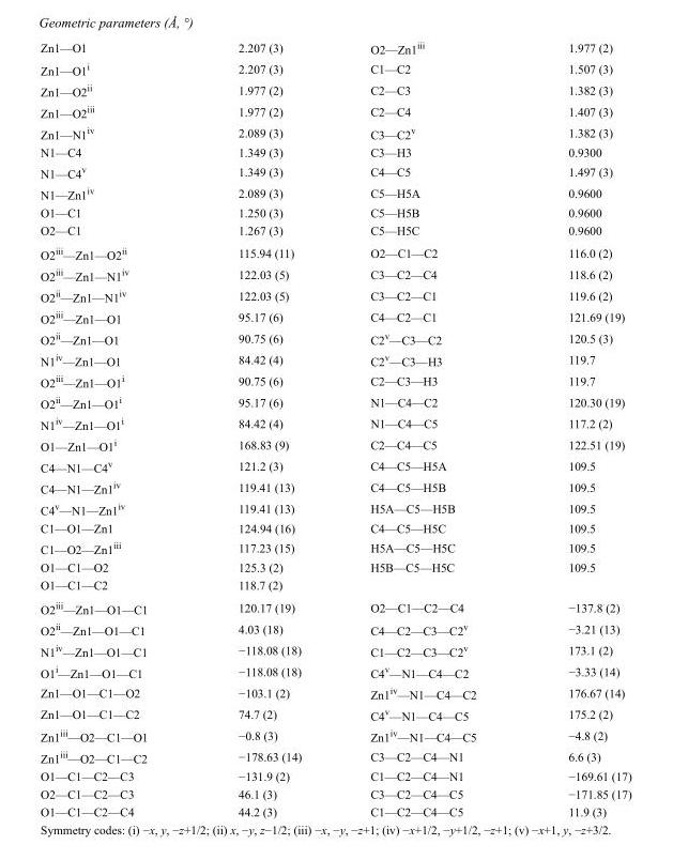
<table><tbody><tr><td>Zn1—O1</td><td>2.207 (3)</td><td>O2—Zn1<sup>iii</sup></td><td>1.977 (2)</td></tr><tr><td>Zn1—O1<sup>i</sup></td><td>2.207 (3)</td><td>C1—C2</td><td>1.507 (3)</td></tr><tr><td>Zn1—O2<sup>ii</sup></td><td>1.977 (2)</td><td>C2—C3</td><td>1.382 (3)</td></tr><tr><td>Zn1—O2<sup>iii</sup></td><td>1.977 (2)</td><td>C2—C4</td><td>1.407 (3)</td></tr><tr><td>Zn1—N1<sup>iv</sup></td><td>2.089 (3)</td><td>C3—C2<sup>v</sup></td><td>1.382 (3)</td></tr><tr><td>N1—C4</td><td>1.349 (3)</td><td>C3—H3</td><td>0.9300</td></tr><tr><td>N1—C4<sup>v</sup></td><td>1.349 (3)</td><td>C4—C5</td><td>1.497 (3)</td></tr><tr><td>N1—Zn1<sup>iv</sup></td><td>2.089 (3)</td><td>C5—H5A</td><td>0.9600</td></tr><tr><td>O1—C1</td><td>1.250 (3)</td><td>C5—H5B</td><td>0.9600</td></tr><tr><td>O2—C1</td><td>1.267 (3)</td><td>C5—H5C</td><td>0.9600</td></tr><tr><td>O2<sup>iii</sup>—Zn1—O2<sup>ii</sup></td><td>115.94 (11)</td><td>O2—C1—C2</td><td>116.0 (2)</td></tr><tr><td>O2<sup>iii</sup>—Zn1—N1<sup>iv</sup></td><td>122.03 (5)</td><td>C3—C2—C4</td><td>118.6 (2)</td></tr><tr><td>O2<sup>ii</sup>—Zn1—N1<sup>iv</sup></td><td>122.03 (5)</td><td>C3—C2—C1</td><td>119.6 (2)</td></tr><tr><td>O2<sup>iii</sup>—Zn1—O1</td><td>95.17 (6)</td><td>C4—C2—C1</td><td>121.69 (19)</td></tr><tr><td>O2<sup>ii</sup>—Zn1—O1</td><td>90.75 (6)</td><td>C2<sup>v</sup>—C3—C2</td><td>120.5 (3)</td></tr><tr><td>N1<sup>iv</sup>—Zn1—O1</td><td>84.42 (4)</td><td>C2<sup>v</sup>—C3—H3</td><td>119.7</td></tr><tr><td>O2<sup>iii</sup>—Zn1—O1<sup>i</sup></td><td>90.75 (6)</td><td>C2—C3—H3</td><td>119.7</td></tr><tr><td>O2<sup>ii</sup>—Zn1—O1<sup>i</sup></td><td>95.17 (6)</td><td>N1—C4—C2</td><td>120.30 (19)</td></tr><tr><td>N1<sup>iv</sup>—Zn1—O1<sup>i</sup></td><td>84.42 (4)</td><td>N1—C4—C5</td><td>117.2 (2)</td></tr><tr><td>O1—Zn1—O1<sup>i</sup></td><td>168.83 (9)</td><td>C2—C4—C5</td><td>122.51 (19)</td></tr><tr><td>C4—N1—C4<sup>v</sup></td><td>121.2 (3)</td><td>C4—C5—H5A</td><td>109.5</td></tr><tr><td>C4—N1—Zn1<sup>iv</sup></td><td>119.41 (13)</td><td>C4—C5—H5B</td><td>109.5</td></tr><tr><td>C4<sup>v</sup>—N1—Zn1<sup>iv</sup></td><td>119.41 (13)</td><td>H5A—C5—H5B</td><td>109.5</td></tr><tr><td>C1—O1—Zn1</td><td>124.94 (16)</td><td>C4—C5—H5C</td><td>109.5</td></tr><tr><td>C1—O2—Zn1<sup>iii</sup></td><td>117.23 (15)</td><td>H5A—C5—H5C</td><td>109.5</td></tr><tr><td>O1—C1—O2</td><td>125.3 (2)</td><td>H5B—C5—H5C</td><td>109.5</td></tr><tr><td>O1—C1—C2</td><td>118.7 (2)</td><td></td><td></td></tr><tr><td>O2<sup>iii</sup>—Zn1—O1—C1</td><td>120.17 (19)</td><td>O2—C1—C2—C4</td><td>−137.8 (2)</td></tr><tr><td>O2<sup>ii</sup>—Zn1—O1—C1</td><td>4.03 (18)</td><td>C4—C2—C3—C2<sup>v</sup></td><td>−3.21 (13)</td></tr><tr><td>N1<sup>iv</sup>—Zn1—O1—C1</td><td>−118.08 (18)</td><td>C1—C2—C3—C2<sup>v</sup></td><td>173.1 (2)</td></tr><tr><td>O1<sup>i</sup>—Zn1—O1—C1</td><td>−118.08 (18)</td><td>C4<sup>v</sup>—N1—C4—C2</td><td>−3.33 (14)</td></tr><tr><td>Zn1—O1—C1—O2</td><td>−103.1 (2)</td><td>Zn1<sup>iv</sup>—N1—C4—C2</td><td>176.67 (14)</td></tr><tr><td>Zn1—O1—C1—C2</td><td>74.7 (2)</td><td>C4<sup>v</sup>—N1—C4—C5</td><td>175.2 (2)</td></tr><tr><td>Zn1<sup>iii</sup>—O2—C1—O1</td><td>−0.8 (3)</td><td>Zn1<sup>iv</sup>—N1—C4—C5</td><td>−4.8 (2)</td></tr><tr><td>Zn1<sup>iii</sup>—O2—C1—C2</td><td>−178.63 (14)</td><td>C3—C2—C4—N1</td><td>6.6 (3)</td></tr><tr><td>O1—C1—C2—C3</td><td>−131.9 (2)</td><td>C1—C2—C4—N1</td><td>−169.61 (17)</td></tr><tr><td>O2—C1—C2—C3</td><td>46.1 (3)</td><td>C3—C2—C4—C5</td><td>−171.85 (17)</td></tr><tr><td>O1—C1—C2—C4</td><td>44.2 (3)</td><td>C1—C2—C4—C5</td><td>11.9 (3)</td></tr></tbody></table>